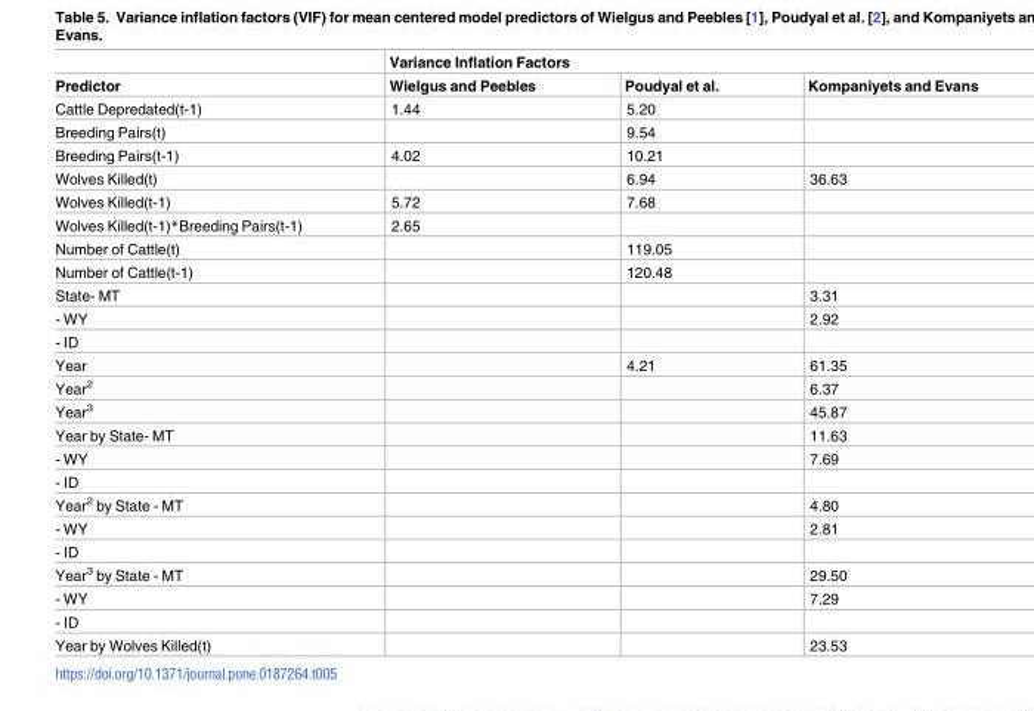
<table><thead><tr><td rowspan="2">Predictor</td><td colspan="3">Variance Inflation Factors</td></tr><tr><td>Wielgus and Peebles</td><td>Poudyal et al.</td><td>Kompaniyets and Evans</td></tr></thead><tbody><tr><td>Cattle Depredated(t-1)</td><td>1.44</td><td>5.20</td><td></td></tr><tr><td>Breeding Pairs(t)</td><td></td><td>9.54</td><td></td></tr><tr><td>Breeding Pairs(t-1)</td><td>4.02</td><td>10.21</td><td></td></tr><tr><td>Wolves Killed(t)</td><td></td><td>6.94</td><td>36.63</td></tr><tr><td>Wolves Killed(t-1)</td><td>5.72</td><td>7.68</td><td></td></tr><tr><td>Wolves Killed(t-1)*Breeding Pairs(t-1)</td><td>2.65</td><td></td><td></td></tr><tr><td>Number of Cattle(t)</td><td></td><td>119.05</td><td></td></tr><tr><td>Number of Cattle(t-1)</td><td></td><td>120.48</td><td></td></tr><tr><td>State- MT</td><td></td><td></td><td>3.31</td></tr><tr><td>- WY</td><td></td><td></td><td>2.92</td></tr><tr><td colspan="4">- ID</td></tr><tr><td>Year</td><td></td><td>4.21</td><td>61.35</td></tr><tr><td>Year<sup>2</sup></td><td></td><td></td><td>6.37</td></tr><tr><td>Year<sup>3</sup></td><td></td><td></td><td>45.87</td></tr><tr><td>Year by State- MT</td><td></td><td></td><td>11.63</td></tr><tr><td>- WY</td><td></td><td></td><td>7.69</td></tr><tr><td colspan="4">- ID</td></tr><tr><td>Year<sup>2</sup> by State - MT</td><td></td><td></td><td>4.80</td></tr><tr><td>- WY</td><td></td><td></td><td>2.81</td></tr><tr><td colspan="4">- ID</td></tr><tr><td>Year<sup>3</sup> by State - MT</td><td></td><td></td><td>29.50</td></tr><tr><td>- WY</td><td></td><td></td><td>7.29</td></tr><tr><td colspan="4">- ID</td></tr><tr><td>Year by Wolves Killed(t)</td><td></td><td></td><td>23.53</td></tr></tbody></table>